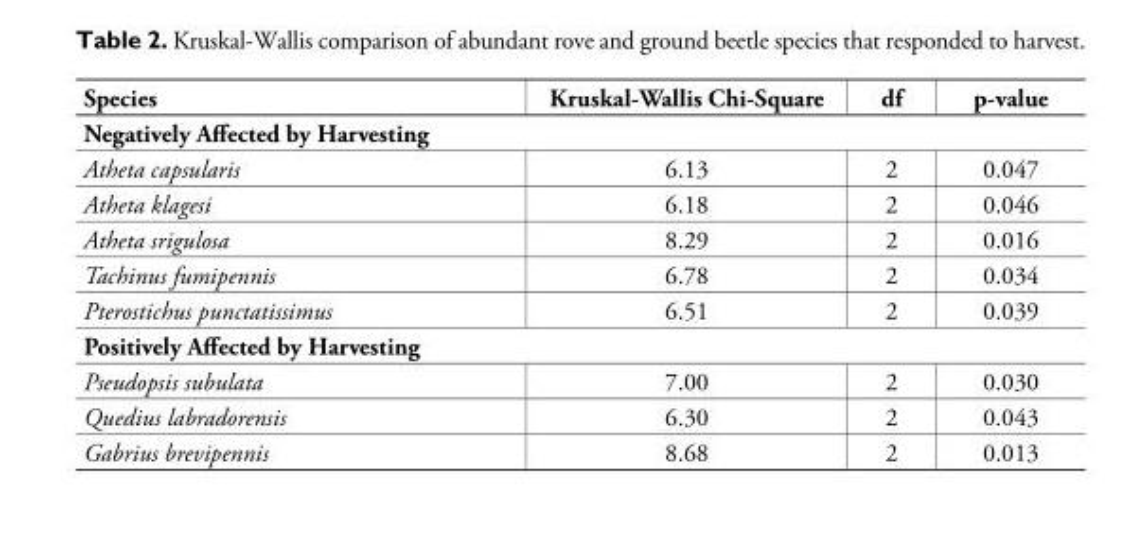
<table><thead><tr><td>Species</td><td>Kruskal-Wallis Chi-Square</td><td>df</td><td>p-value</td></tr></thead><tbody><tr><td colspan="4">Negatively Affected by Harvesting</td></tr><tr><td>Atheta capsularis</td><td>6.13</td><td>2</td><td>0.047</td></tr><tr><td>Atheta klagesi</td><td>6.18</td><td>2</td><td>0.046</td></tr><tr><td>Atheta srigulosa</td><td>8.29</td><td>2</td><td>0.016</td></tr><tr><td>Tachinus fumipennis</td><td>6.78</td><td>2</td><td>0.034</td></tr><tr><td>Pterostichus punctatissimus</td><td>6.51</td><td>2</td><td>0.039</td></tr><tr><td colspan="4">Positively Affected by Harvesting</td></tr><tr><td>Pseudopsis subulata</td><td>7.00</td><td>2</td><td>0.030</td></tr><tr><td>Quedius labradorensis</td><td>6.30</td><td>2</td><td>0.043</td></tr><tr><td>Gabrius brevipennis</td><td>8.68</td><td>2</td><td>0.013</td></tr></tbody></table>